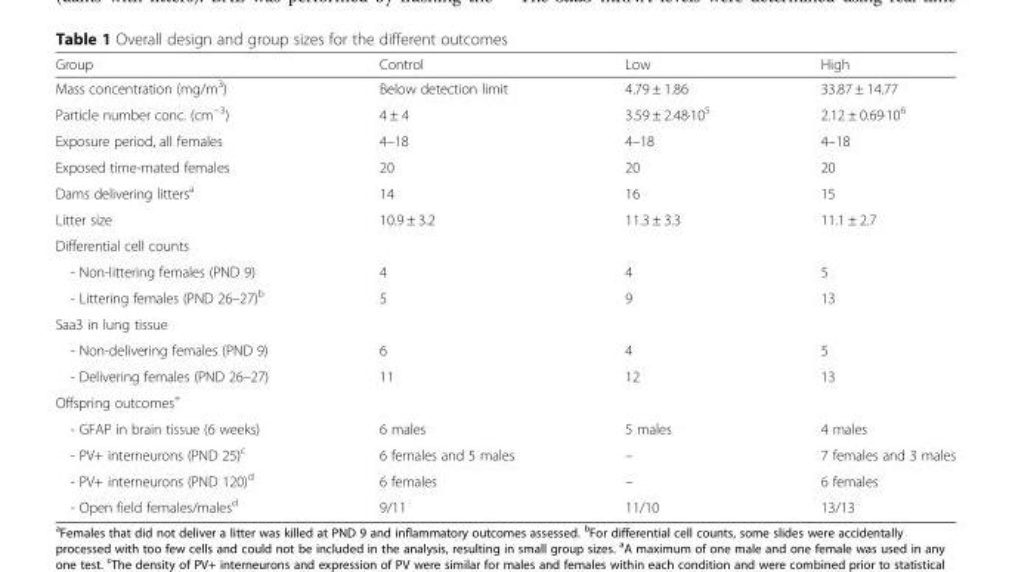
<table><thead><tr><td>Group</td><td>Control</td><td>Low</td><td>High</td></tr></thead><tbody><tr><td>Mass concentration (mg/m<sup>3</sup>)</td><td>Below detection limit</td><td>4.79 ± 1.86</td><td>33.87 ± 14.77</td></tr><tr><td>Particle number conc. (cm<sup>−3</sup>)</td><td>4 ± 4</td><td>3.59 ± 2.48∙10<sup>5</sup></td><td>2.12 ± 0.69∙10<sup>6</sup></td></tr><tr><td>Exposure period, all females</td><td>4–18</td><td>4–18</td><td>4–18</td></tr><tr><td>Exposed time-mated females</td><td>20</td><td>20</td><td>20</td></tr><tr><td>Dams delivering litters<sup>a</sup></td><td>14</td><td>16</td><td>15</td></tr><tr><td>Litter size</td><td>10.9 ± 3.2</td><td>11.3 ± 3.3</td><td>11.1 ± 2.7</td></tr><tr><td colspan="4">Differential cell counts</td></tr><tr><td>- Non-littering females (PND 9)</td><td>4</td><td>4</td><td>5</td></tr><tr><td>- Littering females (PND 26–27)<sup>b</sup></td><td>5</td><td>9</td><td>13</td></tr><tr><td colspan="4">Saa3 in lung tissue</td></tr><tr><td>- Non-delivering females (PND 9)</td><td>6</td><td>4</td><td>5</td></tr><tr><td>- Delivering females (PND 26–27)</td><td>11</td><td>12</td><td>13</td></tr><tr><td colspan="4">Offspring outcomes<sup>+</sup></td></tr><tr><td>- GFAP in brain tissue (6 weeks)</td><td>6 males</td><td>5 males</td><td>4 males</td></tr><tr><td>- PV+ interneurons (PND 25)<sup>c</sup></td><td>6 females and 5 males</td><td>–</td><td>7 females and 3 males</td></tr><tr><td>- PV+ interneurons (PND 120)<sup>d</sup></td><td>6 females</td><td>–</td><td>6 females</td></tr><tr><td>- Open field females/males<sup>d</sup></td><td>9/11</td><td>11/10</td><td>13/13</td></tr></tbody></table>